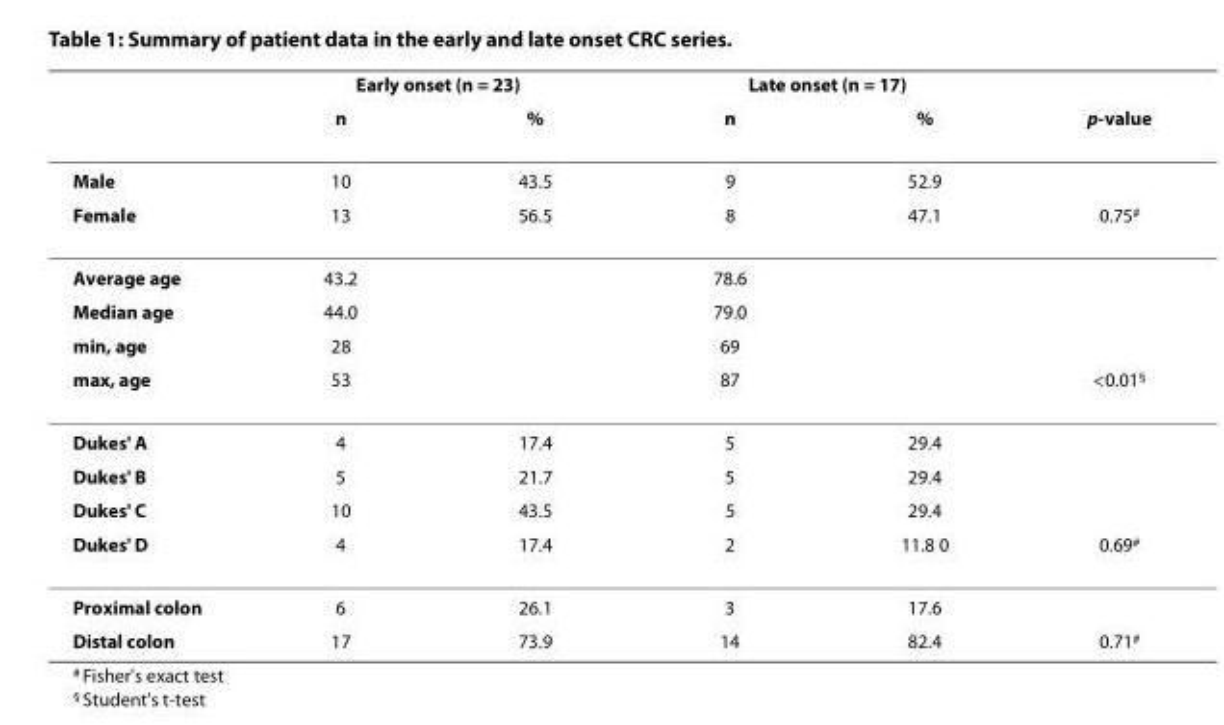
<table><thead><tr><td rowspan="2"></td><td colspan="2">Early onset (n = 23)</td><td colspan="2">Late onset (n = 17)</td><td rowspan="2">p-value</td></tr><tr><td>n</td><td>%</td><td>n</td><td>%</td></tr></thead><tbody><tr><td>Male</td><td>10</td><td>43.5</td><td>9</td><td>52.9</td><td></td></tr><tr><td>Female</td><td>13</td><td>56.5</td><td>8</td><td>47.1</td><td>0.75<sup>#</sup></td></tr><tr><td>Average age</td><td>43.2</td><td></td><td>78.6</td><td></td><td></td></tr><tr><td>Median age</td><td>44.0</td><td></td><td>79.0</td><td></td><td></td></tr><tr><td>min, age</td><td>28</td><td></td><td>69</td><td></td><td></td></tr><tr><td>max, age</td><td>53</td><td></td><td>87</td><td></td><td>&lt;0.01<sup>§</sup></td></tr><tr><td>Dukes&#x27; A</td><td>4</td><td>17.4</td><td>5</td><td>29.4</td><td></td></tr><tr><td>Dukes&#x27; B</td><td>5</td><td>21.7</td><td>5</td><td>29.4</td><td></td></tr><tr><td>Dukes&#x27; C</td><td>10</td><td>43.5</td><td>5</td><td>29.4</td><td></td></tr><tr><td>Dukes&#x27; D</td><td>4</td><td>17.4</td><td>2</td><td>11.8 0</td><td>0.69<sup>#</sup></td></tr><tr><td>Proximal colon</td><td>6</td><td>26.1</td><td>3</td><td>17.6</td><td></td></tr><tr><td>Distal colon</td><td>17</td><td>73.9</td><td>14</td><td>82.4</td><td>0.71<sup>#</sup></td></tr></tbody></table>